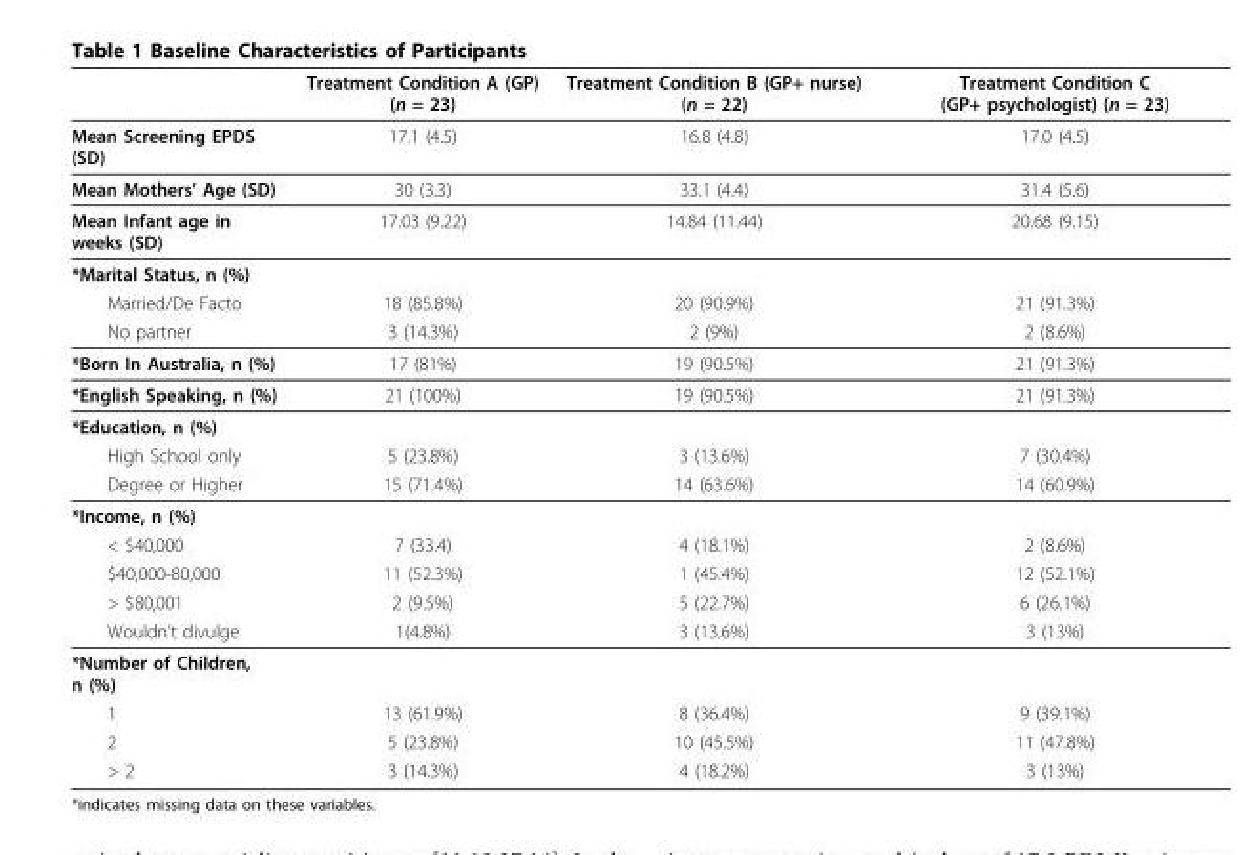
<table><thead><tr><td></td><td>Treatment Condition A (GP) (n = 23)</td><td>Treatment Condition B (GP+ nurse) (n = 22)</td><td>Treatment Condition C (GP+ psychologist) (n = 23)</td></tr></thead><tbody><tr><td>Mean Screening EPDS (SD)</td><td>17.1 (4.5)</td><td>16.8 (4.8)</td><td>17.0 (4.5)</td></tr><tr><td>Mean Mothers’ Age (SD)</td><td>30 (3.3)</td><td>33.1 (4.4)</td><td>31.4 (5.6)</td></tr><tr><td>Mean Infant age in weeks (SD)</td><td>17.03 (9.22)</td><td>14.84 (11.44)</td><td>20.68 (9.15)</td></tr><tr><td colspan="4">*Marital Status, n (%)</td></tr><tr><td>Married/De Facto</td><td>18 (85.8%)</td><td>20 (90.9%)</td><td>21 (91.3%)</td></tr><tr><td>No partner</td><td>3 (14.3%)</td><td>2 (9%)</td><td>2 (8.6%)</td></tr><tr><td>*Born In Australia, n (%)</td><td>17 (81%)</td><td>19 (90.5%)</td><td>21 (91.3%)</td></tr><tr><td>*English Speaking, n (%)</td><td>21 (100%)</td><td>19 (90.5%)</td><td>21 (91.3%)</td></tr><tr><td colspan="4">*Education, n (%)</td></tr><tr><td>High School only</td><td>5 (23.8%)</td><td>3 (13.6%)</td><td>7 (30.4%)</td></tr><tr><td>Degree or Higher</td><td>15 (71.4%)</td><td>14 (63.6%)</td><td>14 (60.9%)</td></tr><tr><td colspan="4">*Income, n (%)</td></tr><tr><td>&lt; $40,000</td><td>7 (33.4)</td><td>4 (18.1%)</td><td>2 (8.6%)</td></tr><tr><td>$40,000-80,000</td><td>11 (52.3%)</td><td>1 (45.4%)</td><td>12 (52.1%)</td></tr><tr><td>&gt; $80,001</td><td>2 (9.5%)</td><td>5 (22.7%)</td><td>6 (26.1%)</td></tr><tr><td>Wouldn’t divulge</td><td>1(4.8%)</td><td>3 (13.6%)</td><td>3 (13%)</td></tr><tr><td colspan="4">*Number of Children, n (%)</td></tr><tr><td>1</td><td>13 (61.9%)</td><td>8 (36.4%)</td><td>9 (39.1%)</td></tr><tr><td>2</td><td>5 (23.8%)</td><td>10 (45.5%)</td><td>11 (47.8%)</td></tr><tr><td>&gt; 2</td><td>3 (14.3%)</td><td>4 (18.2%)</td><td>3 (13%)</td></tr></tbody></table>